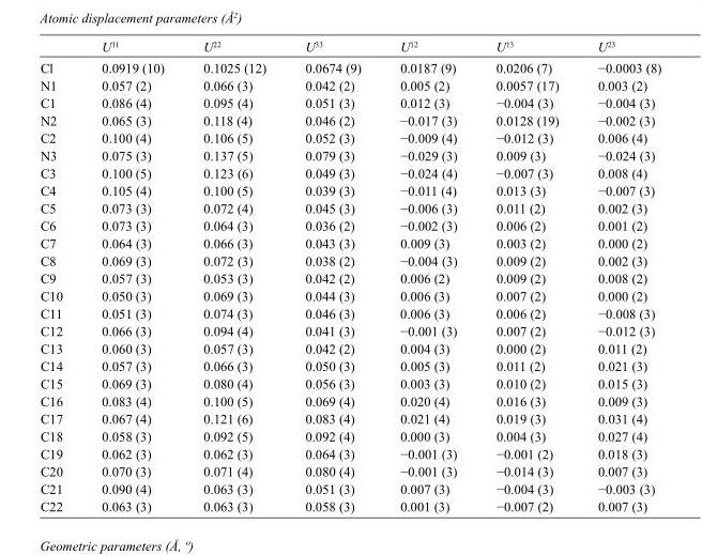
<table><thead><tr><td></td><td>U<sup>11</sup></td><td>U<sup>22</sup></td><td>U<sup>33</sup></td><td>U<sup>12</sup></td><td>U<sup>13</sup></td><td>U<sup>23</sup></td></tr></thead><tbody><tr><td>Cl</td><td>0.0919 (10)</td><td>0.1025 (12)</td><td>0.0674 (9)</td><td>0.0187 (9)</td><td>0.0206 (7)</td><td>−0.0003 (8)</td></tr><tr><td>N1</td><td>0.057 (2)</td><td>0.066 (3)</td><td>0.042 (2)</td><td>0.005 (2)</td><td>0.0057 (17)</td><td>0.003 (2)</td></tr><tr><td>C1</td><td>0.086 (4)</td><td>0.095 (4)</td><td>0.051 (3)</td><td>0.012 (3)</td><td>−0.004 (3)</td><td>−0.004 (3)</td></tr><tr><td>N2</td><td>0.065 (3)</td><td>0.118 (4)</td><td>0.046 (2)</td><td>−0.017 (3)</td><td>0.0128 (19)</td><td>−0.002 (3)</td></tr><tr><td>C2</td><td>0.100 (4)</td><td>0.106 (5)</td><td>0.052 (3)</td><td>−0.009 (4)</td><td>−0.012 (3)</td><td>0.006 (4)</td></tr><tr><td>N3</td><td>0.075 (3)</td><td>0.137 (5)</td><td>0.079 (3)</td><td>−0.029 (3)</td><td>0.009 (3)</td><td>−0.024 (3)</td></tr><tr><td>C3</td><td>0.100 (5)</td><td>0.123 (6)</td><td>0.049 (3)</td><td>−0.024 (4)</td><td>−0.007 (3)</td><td>0.008 (4)</td></tr><tr><td>C4</td><td>0.105 (4)</td><td>0.100 (5)</td><td>0.039 (3)</td><td>−0.011 (4)</td><td>0.013 (3)</td><td>−0.007 (3)</td></tr><tr><td>C5</td><td>0.073 (3)</td><td>0.072 (4)</td><td>0.045 (3)</td><td>−0.006 (3)</td><td>0.011 (2)</td><td>0.002 (3)</td></tr><tr><td>C6</td><td>0.073 (3)</td><td>0.064 (3)</td><td>0.036 (2)</td><td>−0.002 (3)</td><td>0.006 (2)</td><td>0.001 (2)</td></tr><tr><td>C7</td><td>0.064 (3)</td><td>0.066 (3)</td><td>0.043 (3)</td><td>0.009 (3)</td><td>0.003 (2)</td><td>0.000 (2)</td></tr><tr><td>C8</td><td>0.069 (3)</td><td>0.072 (3)</td><td>0.038 (2)</td><td>−0.004 (3)</td><td>0.009 (2)</td><td>0.002 (3)</td></tr><tr><td>C9</td><td>0.057 (3)</td><td>0.053 (3)</td><td>0.042 (2)</td><td>0.006 (2)</td><td>0.009 (2)</td><td>0.008 (2)</td></tr><tr><td>C10</td><td>0.050 (3)</td><td>0.069 (3)</td><td>0.044 (3)</td><td>0.006 (3)</td><td>0.007 (2)</td><td>0.000 (2)</td></tr><tr><td>C11</td><td>0.051 (3)</td><td>0.074 (3)</td><td>0.046 (3)</td><td>0.006 (3)</td><td>0.006 (2)</td><td>−0.008 (3)</td></tr><tr><td>C12</td><td>0.066 (3)</td><td>0.094 (4)</td><td>0.041 (3)</td><td>−0.001 (3)</td><td>0.007 (2)</td><td>−0.012 (3)</td></tr><tr><td>C13</td><td>0.060 (3)</td><td>0.057 (3)</td><td>0.042 (2)</td><td>0.004 (3)</td><td>0.000 (2)</td><td>0.011 (2)</td></tr><tr><td>C14</td><td>0.057 (3)</td><td>0.066 (3)</td><td>0.050 (3)</td><td>0.005 (3)</td><td>0.011 (2)</td><td>0.021 (3)</td></tr><tr><td>C15</td><td>0.069 (3)</td><td>0.080 (4)</td><td>0.056 (3)</td><td>0.003 (3)</td><td>0.010 (2)</td><td>0.015 (3)</td></tr><tr><td>C16</td><td>0.083 (4)</td><td>0.100 (5)</td><td>0.069 (4)</td><td>0.020 (4)</td><td>0.016 (3)</td><td>0.009 (3)</td></tr><tr><td>C17</td><td>0.067 (4)</td><td>0.121 (6)</td><td>0.083 (4)</td><td>0.021 (4)</td><td>0.019 (3)</td><td>0.031 (4)</td></tr><tr><td>C18</td><td>0.058 (3)</td><td>0.092 (5)</td><td>0.092 (4)</td><td>0.000 (3)</td><td>0.004 (3)</td><td>0.027 (4)</td></tr><tr><td>C19</td><td>0.062 (3)</td><td>0.062 (3)</td><td>0.064 (3)</td><td>−0.001 (3)</td><td>−0.001 (2)</td><td>0.018 (3)</td></tr><tr><td>C20</td><td>0.070 (3)</td><td>0.071 (4)</td><td>0.080 (4)</td><td>−0.001 (3)</td><td>−0.014 (3)</td><td>0.007 (3)</td></tr><tr><td>C21</td><td>0.090 (4)</td><td>0.063 (3)</td><td>0.051 (3)</td><td>0.007 (3)</td><td>−0.004 (3)</td><td>−0.003 (3)</td></tr><tr><td>C22</td><td>0.063 (3)</td><td>0.063 (3)</td><td>0.058 (3)</td><td>0.001 (3)</td><td>−0.007 (2)</td><td>0.007 (3)</td></tr></tbody></table>